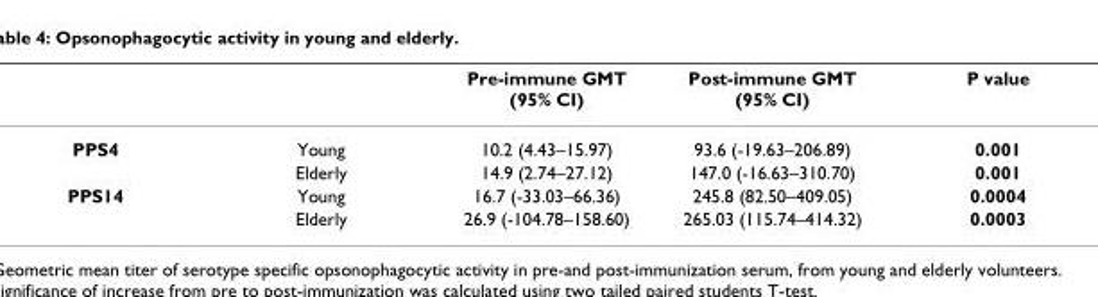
<table><thead><tr><td></td><td></td><td>Pre-immune GMT (95% CI)</td><td>Post-immune GMT (95% CI)</td><td>P value</td></tr></thead><tbody><tr><td rowspan="2">PPS4</td><td>Young</td><td>10.2 (4.43–15.97)</td><td>93.6 (-19.63–206.89)</td><td>0.001</td></tr><tr><td>Elderly</td><td>14.9 (2.74–27.12)</td><td>147.0 (-16.63–310.70)</td><td>0.001</td></tr><tr><td rowspan="2">PPS14</td><td>Young</td><td>16.7 (-33.03–66.36)</td><td>245.8 (82.50–409.05)</td><td>0.0004</td></tr><tr><td>Elderly</td><td>26.9 (-104.78–158.60)</td><td>265.03 (115.74–414.32)</td><td>0.0003</td></tr></tbody></table>